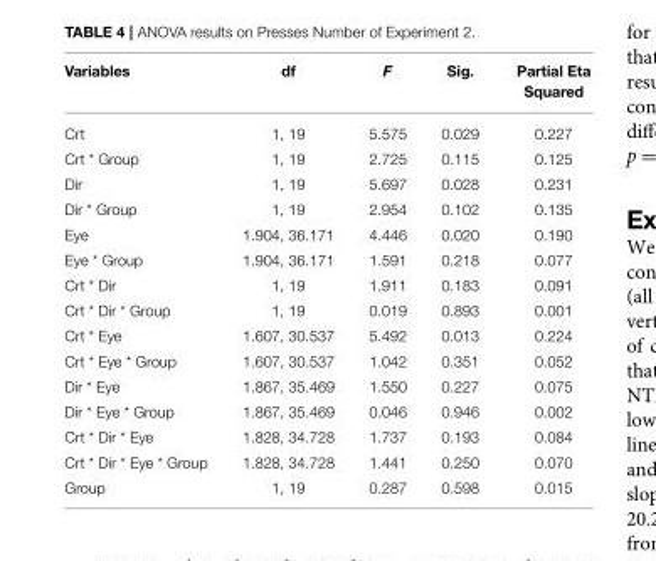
<table><thead><tr><td>Variables</td><td>df</td><td>F</td><td>Sig.</td><td>Partial Eta Squared</td></tr></thead><tbody><tr><td>Crt</td><td>1, 19</td><td>5.575</td><td>0.029</td><td>0.227</td></tr><tr><td>Crt * Group</td><td>1, 19</td><td>2.725</td><td>0.115</td><td>0.125</td></tr><tr><td>Dir</td><td>1, 19</td><td>5.697</td><td>0.028</td><td>0.231</td></tr><tr><td>Dir * Group</td><td>1, 19</td><td>2.954</td><td>0.102</td><td>0.135</td></tr><tr><td>Eye</td><td>1.904, 36.171</td><td>4.446</td><td>0.020</td><td>0.190</td></tr><tr><td>Eye * Group</td><td>1.904, 36.171</td><td>1.591</td><td>0.218</td><td>0.077</td></tr><tr><td>Crt * Dir</td><td>1, 19</td><td>1.911</td><td>0.183</td><td>0.091</td></tr><tr><td>Crt * Dir * Group</td><td>1, 19</td><td>0.019</td><td>0.893</td><td>0.001</td></tr><tr><td>Crt * Eye</td><td>1.607, 30.537</td><td>5.492</td><td>0.013</td><td>0.224</td></tr><tr><td>Crt * Eye * Group</td><td>1.607, 30.537</td><td>1.042</td><td>0.351</td><td>0.052</td></tr><tr><td>Dir * Eye</td><td>1.867, 35.469</td><td>1.550</td><td>0.227</td><td>0.075</td></tr><tr><td>Dir * Eye * Group</td><td>1.867, 35.469</td><td>0.046</td><td>0.946</td><td>0.002</td></tr><tr><td>Crt * Dir * Eye</td><td>1.828, 34.728</td><td>1.737</td><td>0.193</td><td>0.084</td></tr><tr><td>Crt * Dir * Eye * Group</td><td>1.828, 34.728</td><td>1.441</td><td>0.250</td><td>0.070</td></tr><tr><td>Group</td><td>1, 19</td><td>0.287</td><td>0.598</td><td>0.015</td></tr></tbody></table>